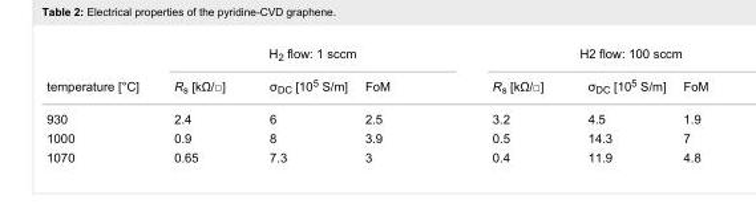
<table><thead><tr><td rowspan="2">temperature [°C]</td><td colspan="3">H<sub>2</sub> flow: 1 sccm</td><td colspan="3">H2 flow: 100 sccm</td></tr><tr><td>R<sub>s</sub> [kΩ/□]</td><td>σ<sub>DC</sub> [10<sup>5</sup> S/m]</td><td>FoM</td><td>R<sub>s</sub> [kΩ/□]</td><td>σ<sub>DC</sub> [10<sup>5</sup> S/m]</td><td>FoM</td></tr></thead><tbody><tr><td>930</td><td>2.4</td><td>6</td><td>2.5</td><td>3.2</td><td>4.5</td><td>1.9</td></tr><tr><td>1000</td><td>0.9</td><td>8</td><td>3.9</td><td>0.5</td><td>14.3</td><td>7</td></tr><tr><td>1070</td><td>0.65</td><td>7.3</td><td>3</td><td>0.4</td><td>11.9</td><td>4.8</td></tr></tbody></table>